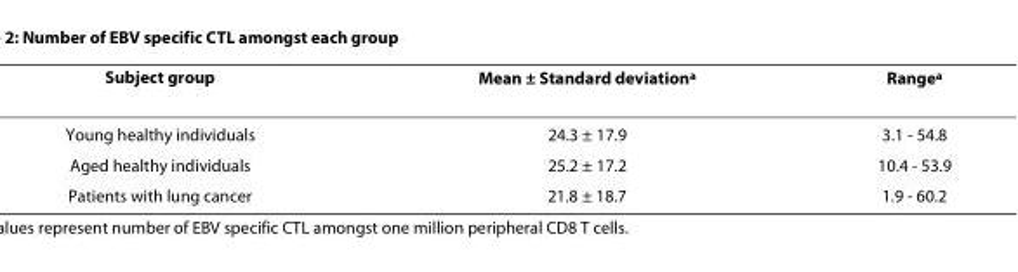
<table><thead><tr><td>Subject group</td><td>Mean ± Standard deviation<sup>a</sup></td><td>Range<sup>a</sup></td></tr></thead><tbody><tr><td>Young healthy individuals</td><td>24.3 ± 17.9</td><td>3.1 - 54.8</td></tr><tr><td>Aged healthy individuals</td><td>25.2 ± 17.2</td><td>10.4 - 53.9</td></tr><tr><td>Patients with lung cancer</td><td>21.8 ± 18.7</td><td>1.9 - 60.2</td></tr></tbody></table>